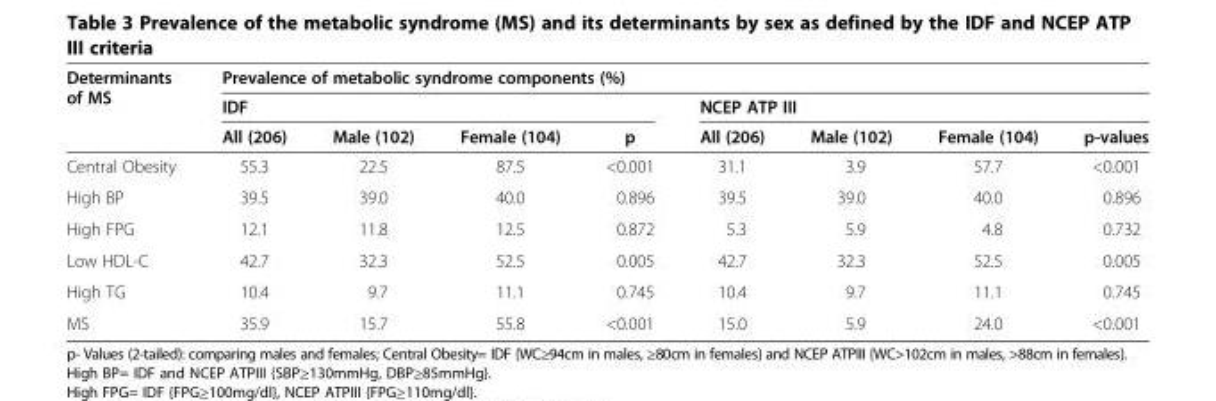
<table><thead><tr><td rowspan="3">Determinants of MS</td><td colspan="8">Prevalence of metabolic syndrome components (%)</td></tr><tr><td colspan="4">IDF</td><td colspan="4">NCEP ATP III</td></tr><tr><td>All (206)</td><td>Male (102)</td><td>Female (104)</td><td>p</td><td>All (206)</td><td>Male (102)</td><td>Female (104)</td><td>p-values</td></tr></thead><tbody><tr><td>Central Obesity</td><td>55.3</td><td>22.5</td><td>87.5</td><td>&lt;0.001</td><td>31.1</td><td>3.9</td><td>57.7</td><td>&lt;0.001</td></tr><tr><td>High BP</td><td>39.5</td><td>39.0</td><td>40.0</td><td>0.896</td><td>39.5</td><td>39.0</td><td>40.0</td><td>0.896</td></tr><tr><td>High FPG</td><td>12.1</td><td>11.8</td><td>12.5</td><td>0.872</td><td>5.3</td><td>5.9</td><td>4.8</td><td>0.732</td></tr><tr><td>Low HDL-C</td><td>42.7</td><td>32.3</td><td>52.5</td><td>0.005</td><td>42.7</td><td>32.3</td><td>52.5</td><td>0.005</td></tr><tr><td>High TG</td><td>10.4</td><td>9.7</td><td>11.1</td><td>0.745</td><td>10.4</td><td>9.7</td><td>11.1</td><td>0.745</td></tr><tr><td>MS</td><td>35.9</td><td>15.7</td><td>55.8</td><td>&lt;0.001</td><td>15.0</td><td>5.9</td><td>24.0</td><td>&lt;0.001</td></tr></tbody></table>